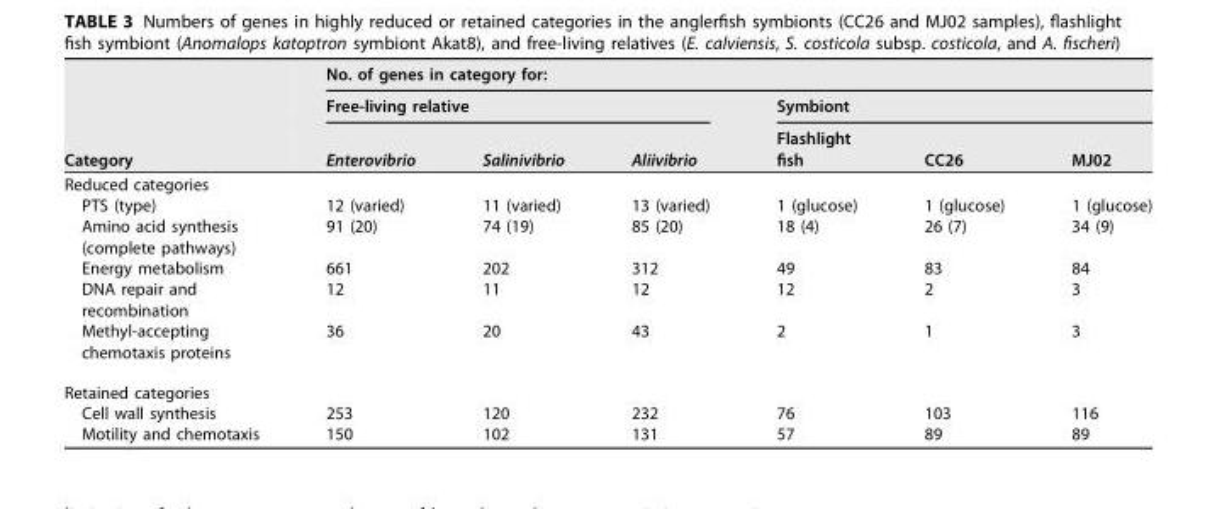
<table><thead><tr><td rowspan="3">Category</td><td colspan="6">No. of genes in category for:</td></tr><tr><td colspan="3">Free-living relative</td><td colspan="3">Symbiont</td></tr><tr><td>Enterovibrio</td><td>Salinivibrio</td><td>Aliivibrio</td><td>Flashlight fish</td><td>CC26</td><td>MJ02</td></tr></thead><tbody><tr><td colspan="7">Reduced categories</td></tr><tr><td>PTS (type)</td><td>12 (varied)</td><td>11 (varied)</td><td>13 (varied)</td><td>1 (glucose)</td><td>1 (glucose)</td><td>1 (glucose)</td></tr><tr><td>Amino acid synthesis (complete pathways)</td><td>91 (20)</td><td>74 (19)</td><td>85 (20)</td><td>18 (4)</td><td>26 (7)</td><td>34 (9)</td></tr><tr><td>Energy metabolism</td><td>661</td><td>202</td><td>312</td><td>49</td><td>83</td><td>84</td></tr><tr><td>DNA repair and recombination</td><td>12</td><td>11</td><td>12</td><td>12</td><td>2</td><td>3</td></tr><tr><td>Methyl-accepting chemotaxis proteins</td><td>36</td><td>20</td><td>43</td><td>2</td><td>1</td><td>3</td></tr><tr><td colspan="7">Retained categories</td></tr><tr><td>Cell wall synthesis</td><td>253</td><td>120</td><td>232</td><td>76</td><td>103</td><td>116</td></tr><tr><td>Motility and chemotaxis</td><td>150</td><td>102</td><td>131</td><td>57</td><td>89</td><td>89</td></tr></tbody></table>